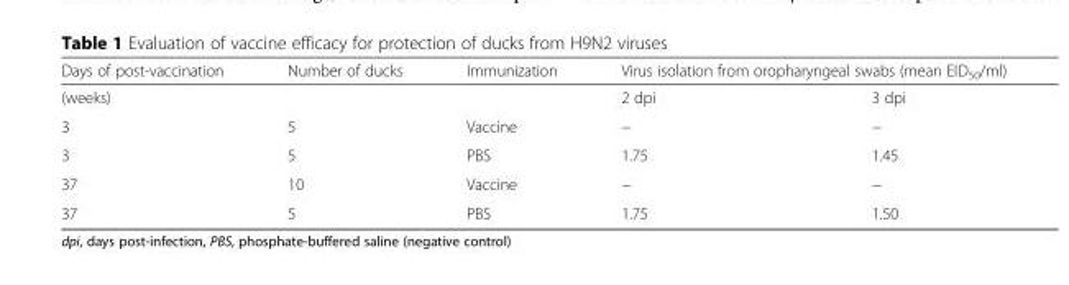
<table><thead><tr><td rowspan="2">Days of post-vaccination (weeks)</td><td rowspan="2">Number of ducks</td><td rowspan="2">Immunization</td><td colspan="2">Virus isolation from oropharyngeal swabs (mean EID<sub>50</sub>/ml)</td></tr><tr><td>2 dpi</td><td>3 dpi</td></tr></thead><tbody><tr><td>3</td><td>5</td><td>Vaccine</td><td>−</td><td>−</td></tr><tr><td>3</td><td>5</td><td>PBS</td><td>1.75</td><td>1.45</td></tr><tr><td>37</td><td>10</td><td>Vaccine</td><td>−</td><td>−</td></tr><tr><td>37</td><td>5</td><td>PBS</td><td>1.75</td><td>1.50</td></tr></tbody></table>